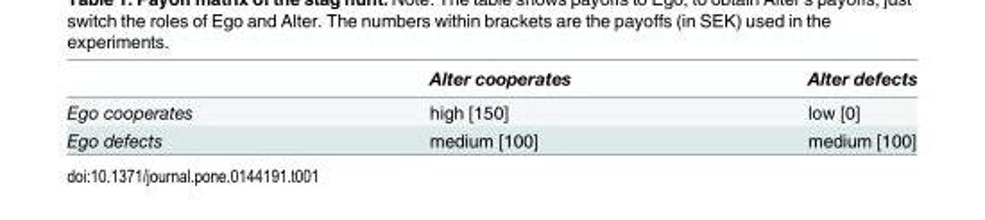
<table><thead><tr><td></td><td>Alter cooperates</td><td>Alter defects</td></tr></thead><tbody><tr><td>Ego cooperates</td><td>high [150]</td><td>low [0]</td></tr><tr><td>Ego defects</td><td>medium [100]</td><td>medium [100]</td></tr></tbody></table>